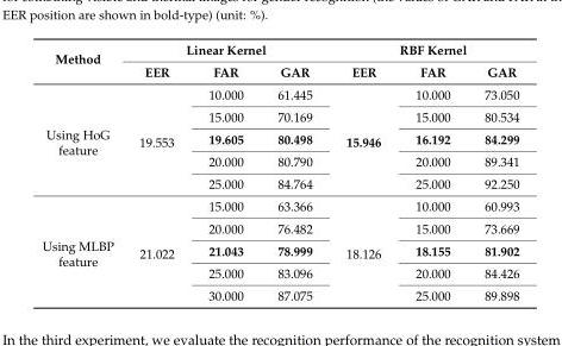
<table><thead><tr><td rowspan="2">Method</td><td colspan="3">Linear Kernel</td><td colspan="3">RBF Kernel</td></tr><tr><td>EER</td><td>FAR</td><td>GAR</td><td>EER</td><td>FAR</td><td>GAR</td></tr></thead><tbody><tr><td rowspan="5">Using HoG feature</td><td rowspan="5">19.553</td><td>10.000</td><td>61.445</td><td rowspan="5">15.946</td><td>10.000</td><td>73.050</td></tr><tr><td>15.000</td><td>70.169</td><td>15.000</td><td>80.534</td></tr><tr><td>19.605</td><td>80.498</td><td>16.192</td><td>84.299</td></tr><tr><td>20.000</td><td>80.790</td><td>20.000</td><td>89.341</td></tr><tr><td>25.000</td><td>84.764</td><td>25.000</td><td>92.250</td></tr><tr><td rowspan="5">Using MLBP feature</td><td rowspan="5">21.022</td><td>15.000</td><td>63.366</td><td rowspan="5">18.126</td><td>10.000</td><td>60.993</td></tr><tr><td>20.000</td><td>76.482</td><td>15.000</td><td>73.669</td></tr><tr><td>21.043</td><td>78.999</td><td>18.155</td><td>81.902</td></tr><tr><td>25.000</td><td>83.096</td><td>20.000</td><td>84.426</td></tr><tr><td>30.000</td><td>87.075</td><td>25.000</td><td>89.898</td></tr></tbody></table>